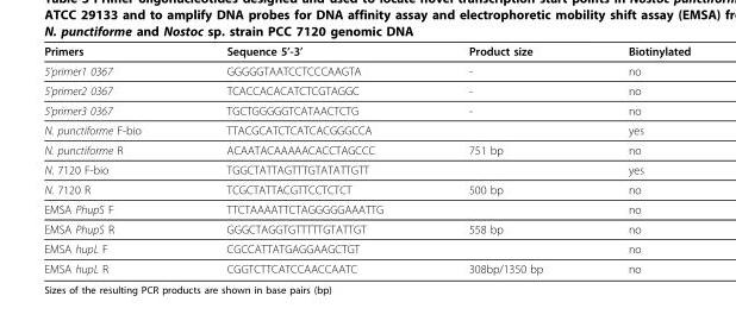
<table><thead><tr><td>Primers</td><td>Sequence 5’-3’</td><td>Product size</td><td>Biotinylated</td></tr></thead><tbody><tr><td>5’primer1 0367</td><td>GGGGGTAATCCTCCCAAGTA</td><td>-</td><td>no</td></tr><tr><td>5’primer2 0367</td><td>TCACCACACATCTCGTAGGC</td><td>-</td><td>no</td></tr><tr><td>5’primer3 0367</td><td>TGCTGGGGGTCATAACTCTG</td><td>-</td><td>no</td></tr><tr><td>N. punctiforme F-bio</td><td>TTACGCATCTCATCACGGGCCA</td><td></td><td>yes</td></tr><tr><td>N. punctiforme R</td><td>ACAATACAAAAACACCTAGCCC</td><td>751 bp</td><td>no</td></tr><tr><td>N. 7120 F-bio</td><td>TGGCTATTAGTTTGTATATTGTT</td><td></td><td>yes</td></tr><tr><td>N. 7120 R</td><td>TCGCTATTACGTTCCTCTCT</td><td>500 bp</td><td>no</td></tr><tr><td>EMSA PhupS F</td><td>TTCTAAAATTCTAGGGGGAAATTG</td><td></td><td>no</td></tr><tr><td>EMSA PhupS R</td><td>GGGCTAGGTGTTTTTGTATTGT</td><td>558 bp</td><td>no</td></tr><tr><td>EMSA hupL F</td><td>CGCCATTATGAGGAAGCTGT</td><td></td><td>no</td></tr><tr><td>EMSA hupL R</td><td>CGGTCTTCATCCAACCAATC</td><td>308bp/1350 bp</td><td>no</td></tr></tbody></table>